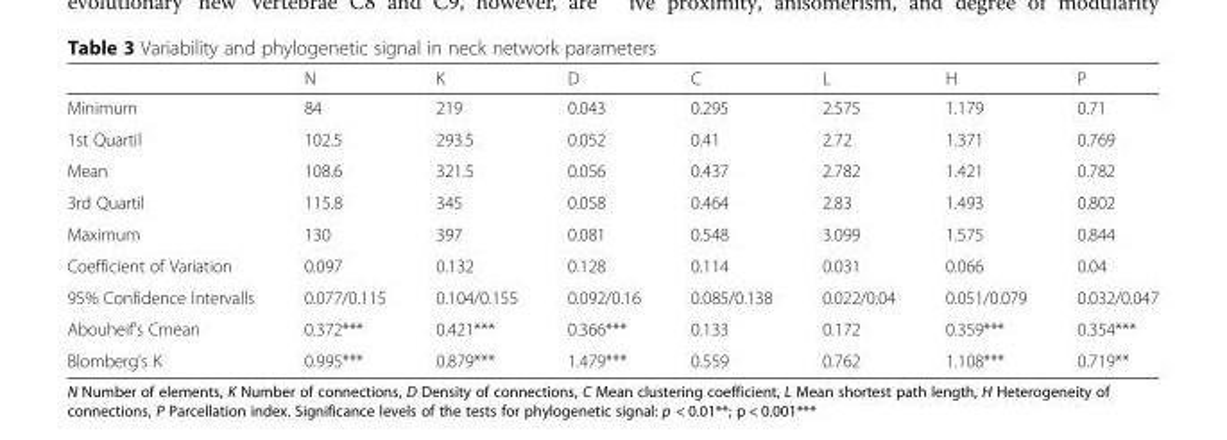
<table><thead><tr><td></td><td>N</td><td>K</td><td>D</td><td>C</td><td>L</td><td>H</td><td>P</td></tr></thead><tbody><tr><td>Minimum</td><td>84</td><td>219</td><td>0.043</td><td>0.295</td><td>2.575</td><td>1.179</td><td>0.71</td></tr><tr><td>1st Quartil</td><td>102.5</td><td>293.5</td><td>0.052</td><td>0.41</td><td>2.72</td><td>1.371</td><td>0.769</td></tr><tr><td>Mean</td><td>108.6</td><td>321.5</td><td>0.056</td><td>0.437</td><td>2.782</td><td>1.421</td><td>0.782</td></tr><tr><td>3rd Quartil</td><td>115.8</td><td>345</td><td>0.058</td><td>0.464</td><td>2.83</td><td>1.493</td><td>0.802</td></tr><tr><td>Maximum</td><td>130</td><td>397</td><td>0.081</td><td>0.548</td><td>3.099</td><td>1.575</td><td>0.844</td></tr><tr><td>Coefficient of Variation</td><td>0.097</td><td>0.132</td><td>0.128</td><td>0.114</td><td>0.031</td><td>0.066</td><td>0.04</td></tr><tr><td>95% Confidence Intervalls</td><td>0.077/0.115</td><td>0.104/0.155</td><td>0.092/0.16</td><td>0.085/0.138</td><td>0.022/0.04</td><td>0.051/0.079</td><td>0.032/0.047</td></tr><tr><td>Abouheif’s Cmean</td><td>0.372***</td><td>0.421***</td><td>0.366***</td><td>0.133</td><td>0.172</td><td>0.359***</td><td>0.354***</td></tr><tr><td>Blomberg’s K</td><td>0.995***</td><td>0.879***</td><td>1.479***</td><td>0.559</td><td>0.762</td><td>1.108***</td><td>0.719**</td></tr></tbody></table>